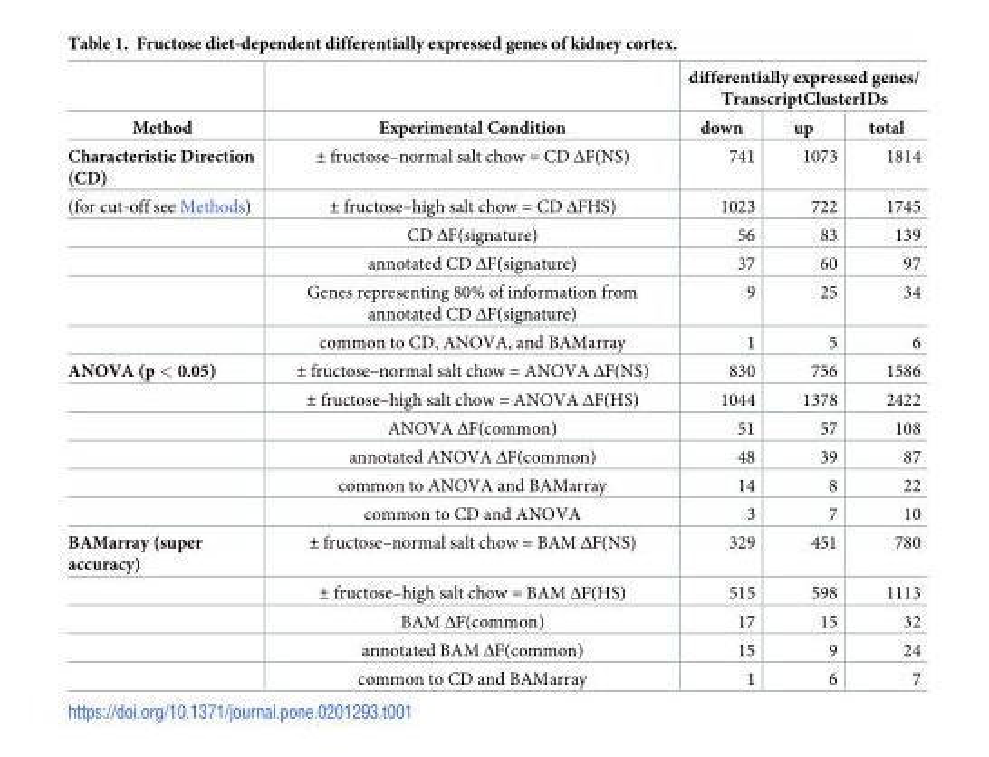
<table><thead><tr><td rowspan="2">Method</td><td rowspan="2">Experimental Condition</td><td colspan="3">differentially expressed genes/ TranscriptClusterIDs</td></tr><tr><td>down</td><td>up</td><td>total</td></tr></thead><tbody><tr><td>Characteristic Direction (CD)</td><td>± fructose–normal salt chow = CD ΔF(NS)</td><td>741</td><td>1073</td><td>1814</td></tr><tr><td rowspan="5">(for cut-off see Methods)</td><td>± fructose–high salt chow = CD ΔFHS)</td><td>1023</td><td>722</td><td>1745</td></tr><tr><td>CD ΔF(signature)</td><td>56</td><td>83</td><td>139</td></tr><tr><td>annotated CD ΔF(signature)</td><td>37</td><td>60</td><td>97</td></tr><tr><td>Genes representing 80% of information from annotated CD ΔF(signature)</td><td>9</td><td>25</td><td>34</td></tr><tr><td>common to CD, ANOVA, and BAMarray</td><td>1</td><td>5</td><td>6</td></tr><tr><td rowspan="6">ANOVA (p &lt; 0.05)</td><td>± fructose–normal salt chow = ANOVA ΔF(NS)</td><td>830</td><td>756</td><td>1586</td></tr><tr><td>± fructose–high salt chow = ANOVA ΔF(HS)</td><td>1044</td><td>1378</td><td>2422</td></tr><tr><td>ANOVA ΔF(common)</td><td>51</td><td>57</td><td>108</td></tr><tr><td>annotated ANOVA ΔF(common)</td><td>48</td><td>39</td><td>87</td></tr><tr><td>common to ANOVA and BAMarray</td><td>14</td><td>8</td><td>22</td></tr><tr><td>common to CD and ANOVA</td><td>3</td><td>7</td><td>10</td></tr><tr><td rowspan="5">BAMarray (super accuracy)</td><td>± fructose–normal salt chow = BAM ΔF(NS)</td><td>329</td><td>451</td><td>780</td></tr><tr><td>± fructose–high salt chow = BAM ΔF(HS)</td><td>515</td><td>598</td><td>1113</td></tr><tr><td>BAM ΔF(common)</td><td>17</td><td>15</td><td>32</td></tr><tr><td>annotated BAM ΔF(common)</td><td>15</td><td>9</td><td>24</td></tr><tr><td>common to CD and BAMarray</td><td>1</td><td>6</td><td>7</td></tr></tbody></table>